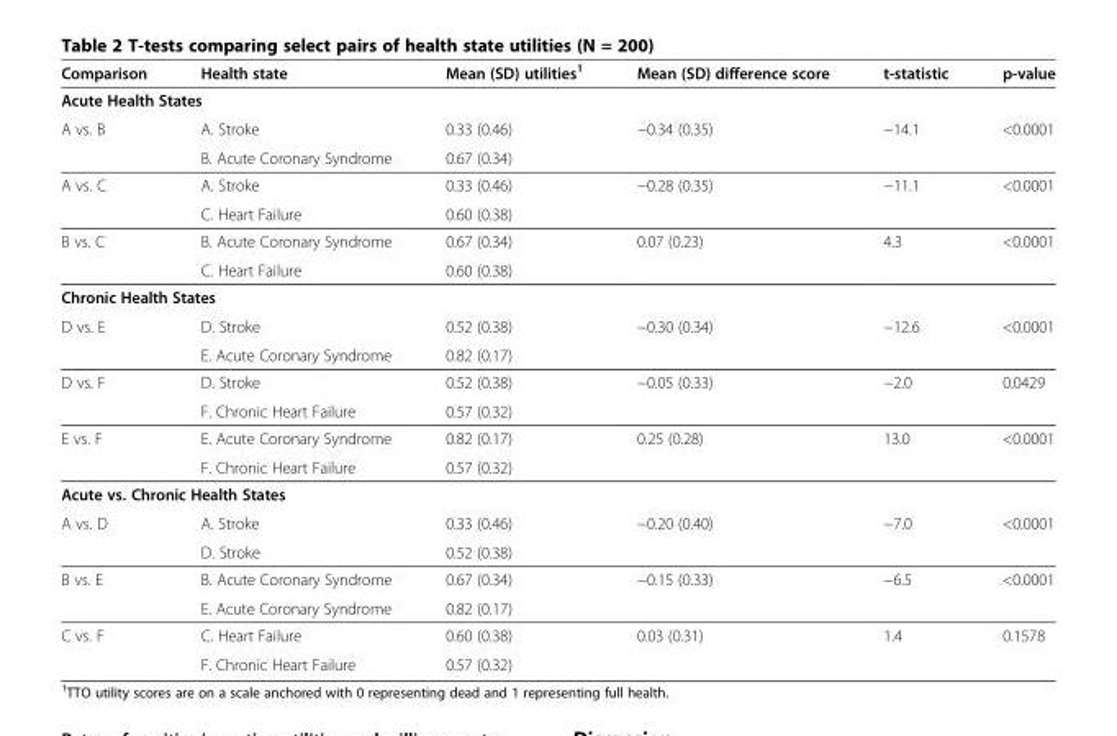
<table><thead><tr><td>Comparison</td><td>Health state</td><td>Mean (SD) utilities<sup>1</sup></td><td>Mean (SD) difference score</td><td>t-statistic</td><td>p-value</td></tr></thead><tbody><tr><td colspan="6">Acute Health States</td></tr><tr><td rowspan="2">A vs. B</td><td>A. Stroke</td><td>0.33 (0.46)</td><td>−0.34 (0.35)</td><td>−14.1</td><td>&lt;0.0001</td></tr><tr><td>B. Acute Coronary Syndrome</td><td>0.67 (0.34)</td><td></td><td></td><td></td></tr><tr><td rowspan="2">A vs. C</td><td>A. Stroke</td><td>0.33 (0.46)</td><td>−0.28 (0.35)</td><td>−11.1</td><td>&lt;0.0001</td></tr><tr><td>C. Heart Failure</td><td>0.60 (0.38)</td><td></td><td></td><td></td></tr><tr><td rowspan="2">B vs. C</td><td>B. Acute Coronary Syndrome</td><td>0.67 (0.34)</td><td>0.07 (0.23)</td><td>4.3</td><td>&lt;0.0001</td></tr><tr><td>C. Heart Failure</td><td>0.60 (0.38)</td><td></td><td></td><td></td></tr><tr><td colspan="6">Chronic Health States</td></tr><tr><td rowspan="2">D vs. E</td><td>D. Stroke</td><td>0.52 (0.38)</td><td>−0.30 (0.34)</td><td>−12.6</td><td>&lt;0.0001</td></tr><tr><td>E. Acute Coronary Syndrome</td><td>0.82 (0.17)</td><td></td><td></td><td></td></tr><tr><td rowspan="2">D vs. F</td><td>D. Stroke</td><td>0.52 (0.38)</td><td>−0.05 (0.33)</td><td>−2.0</td><td>0.0429</td></tr><tr><td>F. Chronic Heart Failure</td><td>0.57 (0.32)</td><td></td><td></td><td></td></tr><tr><td rowspan="2">E vs. F</td><td>E. Acute Coronary Syndrome</td><td>0.82 (0.17)</td><td>0.25 (0.28)</td><td>13.0</td><td>&lt;0.0001</td></tr><tr><td>F. Chronic Heart Failure</td><td>0.57 (0.32)</td><td></td><td></td><td></td></tr><tr><td colspan="6">Acute vs. Chronic Health States</td></tr><tr><td rowspan="2">A vs. D</td><td>A. Stroke</td><td>0.33 (0.46)</td><td>−0.20 (0.40)</td><td>−7.0</td><td>&lt;0.0001</td></tr><tr><td>D. Stroke</td><td>0.52 (0.38)</td><td></td><td></td><td></td></tr><tr><td rowspan="2">B vs. E</td><td>B. Acute Coronary Syndrome</td><td>0.67 (0.34)</td><td>−0.15 (0.33)</td><td>−6.5</td><td>&lt;0.0001</td></tr><tr><td>E. Acute Coronary Syndrome</td><td>0.82 (0.17)</td><td></td><td></td><td></td></tr><tr><td rowspan="2">C vs. F</td><td>C. Heart Failure</td><td>0.60 (0.38)</td><td>0.03 (0.31)</td><td>1.4</td><td>0.1578</td></tr><tr><td>F. Chronic Heart Failure</td><td>0.57 (0.32)</td><td></td><td></td><td></td></tr></tbody></table>